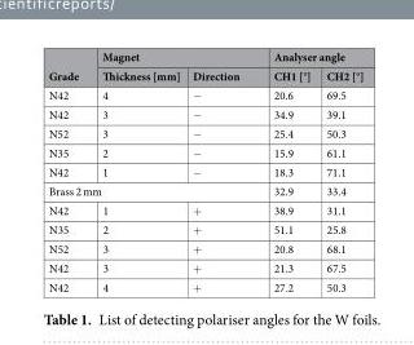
<table><thead><tr><td rowspan="2">Grade</td><td colspan="2">Magnet</td><td colspan="2">Analyser angle</td></tr><tr><td>Thickness [mm]</td><td>Direction</td><td>CH1 [°]</td><td>CH2 [°]</td></tr></thead><tbody><tr><td>N42</td><td>4</td><td>−</td><td>20.6</td><td>69.5</td></tr><tr><td>N42</td><td>3</td><td>−</td><td>34.9</td><td>39.1</td></tr><tr><td>N52</td><td>3</td><td>−</td><td>25.4</td><td>50.3</td></tr><tr><td>N35</td><td>2</td><td>−</td><td>15.9</td><td>61.1</td></tr><tr><td>N42</td><td>1</td><td>−</td><td>18.3</td><td>71.1</td></tr><tr><td colspan="3">Brass 2 mm</td><td>32.9</td><td>33.4</td></tr><tr><td>N42</td><td>1</td><td>+</td><td>38.9</td><td>31.1</td></tr><tr><td>N35</td><td>2</td><td>+</td><td>51.1</td><td>25.8</td></tr><tr><td>N52</td><td>3</td><td>+</td><td>20.8</td><td>68.1</td></tr><tr><td>N42</td><td>3</td><td>+</td><td>21.3</td><td>67.5</td></tr><tr><td>N42</td><td>4</td><td>+</td><td>27.2</td><td>50.3</td></tr></tbody></table>